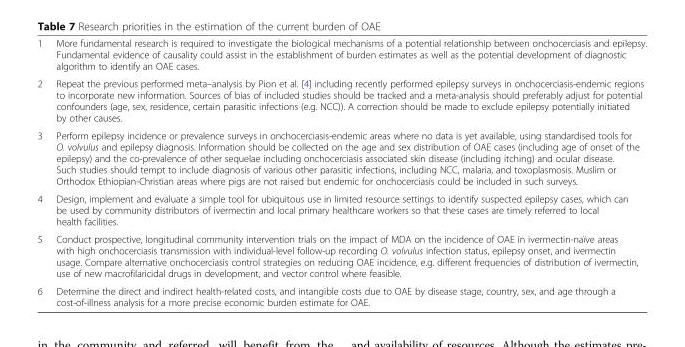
<table><tbody><tr><td>1</td><td>More fundamental research is required to investigate the biological mechanisms of a potential relationship between onchocerciasis and epilepsy. Fundamental evidence of causality could assist in the establishment of burden estimates as well as the potential development of diagnostic algorithm to identify an OAE cases.</td></tr><tr><td>2</td><td>Repeat the previous performed meta–analysis by Pion et al. [4] including recently performed epilepsy surveys in onchocerciasis-endemic regions to incorporate new information. Sources of bias of included studies should be tracked and a meta-analysis should preferably adjust for potential confounders (age, sex, residence, certain parasitic infections (e.g. NCC)). A correction should be made to exclude epilepsy potentially initiated by other causes.</td></tr><tr><td>3</td><td>Perform epilepsy incidence or prevalence surveys in onchocerciasis-endemic areas where no data is yet available, using standardised tools for O. volvulus and epilepsy diagnosis. Information should be collected on the age and sex distribution of OAE cases (including age of onset of the epilepsy) and the co-prevalence of other sequelae including onchocerciasis associated skin disease (including itching) and ocular disease. Such studies should tempt to include diagnosis of various other parasitic infections, including NCC, malaria, and toxoplasmosis. Muslim or Orthodox Ethiopian-Christian areas where pigs are not raised but endemic for onchocerciasis could be included in such surveys.</td></tr><tr><td>4</td><td>Design, implement and evaluate a simple tool for ubiquitous use in limited resource settings to identify suspected epilepsy cases, which can be used by community distributors of ivermectin and local primary healthcare workers so that these cases are timely referred to local health facilities.</td></tr><tr><td>5</td><td>Conduct prospective, longitudinal community intervention trials on the impact of MDA on the incidence of OAE in ivermectin-naïve areas with high onchocerciasis transmission with individual-level follow-up recording O. volvulus infection status, epilepsy onset, and ivermectin usage. Compare alternative onchocerciasis control strategies on reducing OAE incidence, e.g. different frequencies of distribution of ivermectin, use of new macrofilaricidal drugs in development, and vector control where feasible.</td></tr><tr><td>6</td><td>Determine the direct and indirect health-related costs, and intangible costs due to OAE by disease stage, country, sex, and age through a cost-of-illness analysis for a more precise economic burden estimate for OAE.</td></tr></tbody></table>